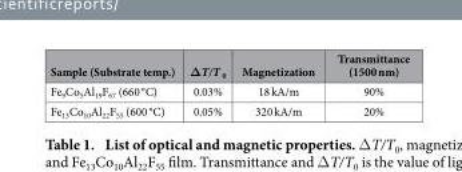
<table><thead><tr><td>Sample (Substrate temp.)</td><td>ΔT/T <sub>0</sub></td><td>Magnetization</td><td>Transmittance (1500 nm)</td></tr></thead><tbody><tr><td>Fe<sub>9</sub>Co<sub>5</sub>Al<sub>19</sub>F<sub>67</sub> (660 °C)</td><td>0.03%</td><td>18 kA/m</td><td>90%</td></tr><tr><td>Fe<sub>13</sub>Co<sub>10</sub>Al<sub>22</sub>F<sub>55</sub> (600 °C)</td><td>0.05%</td><td>320 kA/m</td><td>20%</td></tr></tbody></table>